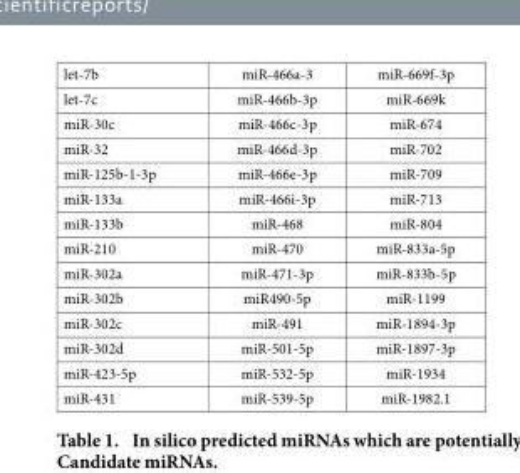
<table><tbody><tr><td>let-7b</td><td>miR-466a-3</td><td>miR-669f-3p</td></tr><tr><td>let-7c</td><td>miR-466b-3p</td><td>miR-669k</td></tr><tr><td>miR-30c</td><td>miR-466c-3p</td><td>miR-674</td></tr><tr><td>miR-32</td><td>miR-466d-3p</td><td>miR-702</td></tr><tr><td>miR-125b-1-3p</td><td>miR-466e-3p</td><td>miR-709</td></tr><tr><td>miR-133a</td><td>miR-466i-3p</td><td>miR-713</td></tr><tr><td>miR-133b</td><td>miR-468</td><td>miR-804</td></tr><tr><td>miR-210</td><td>miR-470</td><td>miR-833a-5p</td></tr><tr><td>miR-302a</td><td>miR-471-3p</td><td>miR-833b-5p</td></tr><tr><td>miR-302b</td><td>miR490-5p</td><td>miR-1199</td></tr><tr><td>miR-302c</td><td>miR-491</td><td>miR-1894-3p</td></tr><tr><td>miR-302d</td><td>miR-501-5p</td><td>miR-1897-3p</td></tr><tr><td>miR-423-5p</td><td>miR-532-5p</td><td>miR-1934</td></tr><tr><td>miR-431</td><td>miR-539-5p</td><td>miR-1982.1</td></tr></tbody></table>